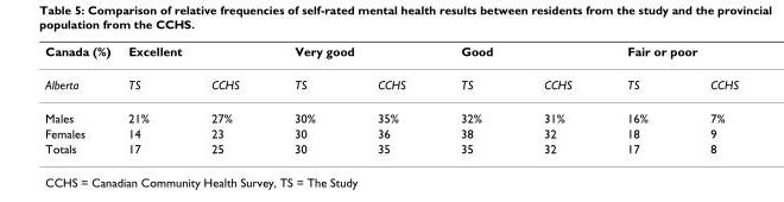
<table><thead><tr><td rowspan="2">Canada (%) Alberta</td><td colspan="2">Excellent</td><td colspan="2">Very good</td><td colspan="2">Good</td><td colspan="2">Fair or poor</td></tr><tr><td>TS</td><td>CCHS</td><td>TS</td><td>CCHS</td><td>TS</td><td>CCHS</td><td>TS</td><td>CCHS</td></tr></thead><tbody><tr><td>Males</td><td>21%</td><td>27%</td><td>30%</td><td>35%</td><td>32%</td><td>31%</td><td>16%</td><td>7%</td></tr><tr><td>Females</td><td>14</td><td>23</td><td>30</td><td>36</td><td>38</td><td>32</td><td>18</td><td>9</td></tr><tr><td>Totals</td><td>17</td><td>25</td><td>30</td><td>35</td><td>35</td><td>32</td><td>17</td><td>8</td></tr></tbody></table>